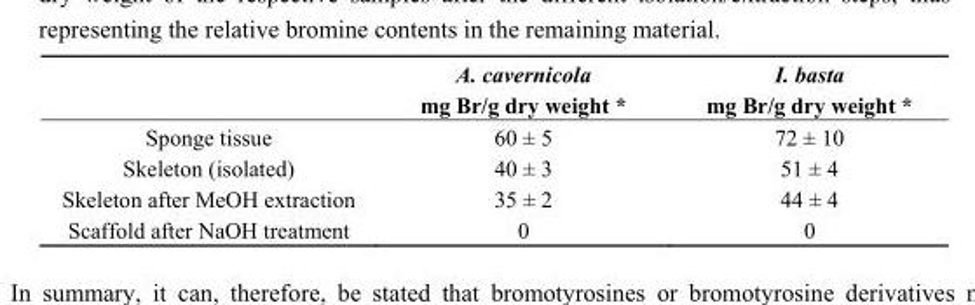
<table><thead><tr><td></td><td>A. cavernicola mg Br/g dry weight *</td><td>I. basta mg Br/g dry weight *</td></tr></thead><tbody><tr><td>Sponge tissue</td><td>60 ± 5</td><td>72 ± 10</td></tr><tr><td>Skeleton (isolated)</td><td>40 ± 3</td><td>51 ± 4</td></tr><tr><td>Skeleton after MeOH extraction</td><td>35 ± 2</td><td>44 ± 4</td></tr><tr><td>Scaffold after NaOH treatment</td><td>0</td><td>0</td></tr></tbody></table>